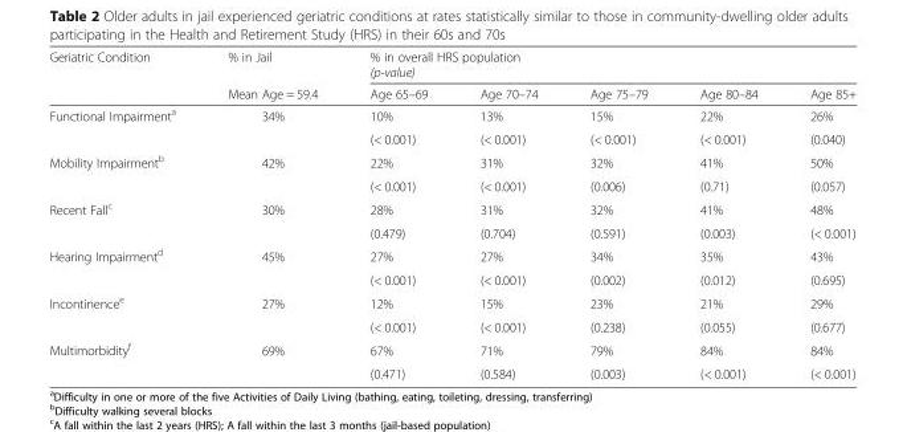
<table><thead><tr><td rowspan="2">Geriatric Condition</td><td rowspan="2">% in Jail Mean Age = 59.4</td><td colspan="5">% in overall HRS population (p-value)</td></tr><tr><td>Age 65–69</td><td>Age 70–74</td><td>Age 75–79</td><td>Age 80–84</td><td>Age 85+</td></tr></thead><tbody><tr><td rowspan="2">Functional Impairment<sup>a</sup></td><td rowspan="2">34%</td><td>10%</td><td>13%</td><td>15%</td><td>22%</td><td>26%</td></tr><tr><td>(&lt; 0.001)</td><td>(&lt; 0.001)</td><td>(&lt; 0.001)</td><td>(&lt; 0.001)</td><td>(0.040)</td></tr><tr><td rowspan="2">Mobility Impairment<sup>b</sup></td><td rowspan="2">42%</td><td>22%</td><td>31%</td><td>32%</td><td>41%</td><td>50%</td></tr><tr><td>(&lt; 0.001)</td><td>(&lt; 0.001)</td><td>(0.006)</td><td>(0.71)</td><td>(0.057)</td></tr><tr><td rowspan="2">Recent Fall<sup>c</sup></td><td rowspan="2">30%</td><td>28%</td><td>31%</td><td>32%</td><td>41%</td><td>48%</td></tr><tr><td>(0.479)</td><td>(0.704)</td><td>(0.591)</td><td>(0.003)</td><td>(&lt; 0.001)</td></tr><tr><td rowspan="2">Hearing Impairment<sup>d</sup></td><td rowspan="2">45%</td><td>27%</td><td>27%</td><td>34%</td><td>35%</td><td>43%</td></tr><tr><td>(&lt; 0.001)</td><td>(&lt; 0.001)</td><td>(0.002)</td><td>(0.012)</td><td>(0.695)</td></tr><tr><td rowspan="2">Incontinence<sup>e</sup></td><td rowspan="2">27%</td><td>12%</td><td>15%</td><td>23%</td><td>21%</td><td>29%</td></tr><tr><td>(&lt; 0.001)</td><td>(&lt; 0.001)</td><td>(0.238)</td><td>(0.055)</td><td>(0.677)</td></tr><tr><td rowspan="2">Multimorbidity<sup>f</sup></td><td rowspan="2">69%</td><td>67%</td><td>71%</td><td>79%</td><td>84%</td><td>84%</td></tr><tr><td>(0.471)</td><td>(0.584)</td><td>(0.003)</td><td>(&lt; 0.001)</td><td>(&lt; 0.001)</td></tr></tbody></table>